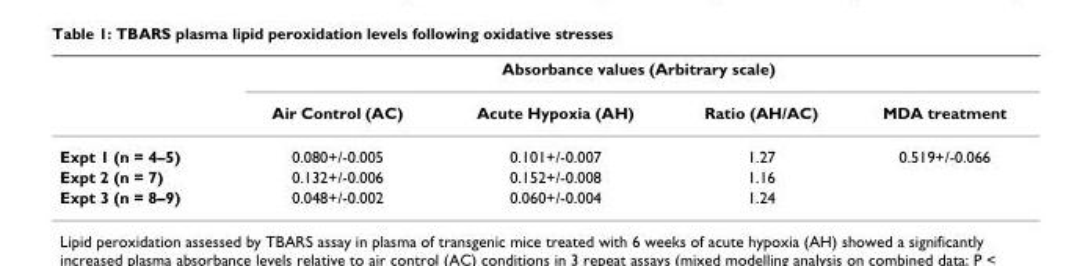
<table><thead><tr><td rowspan="2"></td><td colspan="4">Absorbance values (Arbitrary scale)</td></tr><tr><td>Air Control (AC)</td><td>Acute Hypoxia (AH)</td><td>Ratio (AH/AC)</td><td>MDA treatment</td></tr></thead><tbody><tr><td>Expt 1 (n = 4–5)</td><td>0.080+/-0.005</td><td>0.101+/-0.007</td><td>1.27</td><td>0.519+/-0.066</td></tr><tr><td>Expt 2 (n = 7)</td><td>0.132+/-0.006</td><td>0.152+/-0.008</td><td>1.16</td><td></td></tr><tr><td>Expt 3 (n = 8–9)</td><td>0.048+/-0.002</td><td>0.060+/-0.004</td><td>1.24</td><td></td></tr></tbody></table>